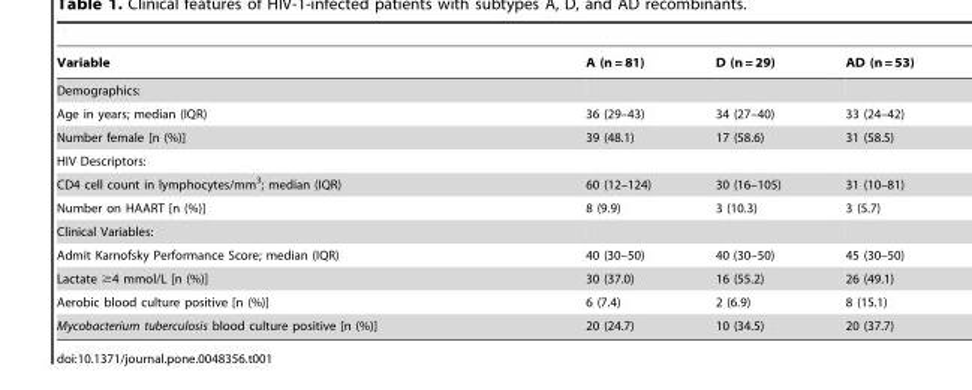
<table><thead><tr><td>Variable</td><td>A (n = 81)</td><td>D (n = 29)</td><td>AD (n = 53)</td></tr></thead><tbody><tr><td colspan="4">Demographics:</td></tr><tr><td>Age in years; median (IQR)</td><td>36 (29–43)</td><td>34 (27–40)</td><td>33 (24–42)</td></tr><tr><td>Number female [n (%)]</td><td>39 (48.1)</td><td>17 (58.6)</td><td>31 (58.5)</td></tr><tr><td colspan="4">HIV Descriptors:</td></tr><tr><td>CD4 cell count in lymphocytes/mm<sup>3</sup>; median (IQR)</td><td>60 (12–124)</td><td>30 (16–105)</td><td>31 (10–81)</td></tr><tr><td>Number on HAART [n (%)]</td><td>8 (9.9)</td><td>3 (10.3)</td><td>3 (5.7)</td></tr><tr><td colspan="4">Clinical Variables:</td></tr><tr><td>Admit Karnofsky Performance Score; median (IQR)</td><td>40 (30–50)</td><td>40 (30–50)</td><td>45 (30–50)</td></tr><tr><td>Lactate ≥4 mmol/L [n (%)]</td><td>30 (37.0)</td><td>16 (55.2)</td><td>26 (49.1)</td></tr><tr><td>Aerobic blood culture positive [n (%)]</td><td>6 (7.4)</td><td>2 (6.9)</td><td>8 (15.1)</td></tr><tr><td>Mycobacterium tuberculosis blood culture positive [n (%)]</td><td>20 (24.7)</td><td>10 (34.5)</td><td>20 (37.7)</td></tr></tbody></table>